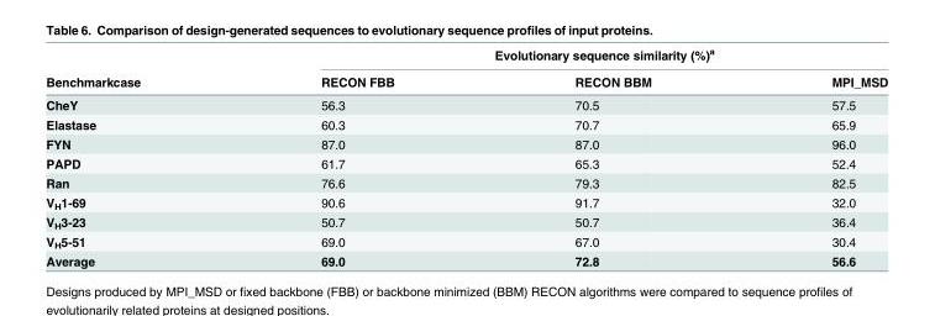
<table><thead><tr><td rowspan="2">Benchmarkcase</td><td colspan="3">Evolutionary sequence similarity (%)<sup>a</sup></td></tr><tr><td>RECON FBB</td><td>RECON BBM</td><td>MPI_MSD</td></tr></thead><tbody><tr><td>CheY</td><td>56.3</td><td>70.5</td><td>57.5</td></tr><tr><td>Elastase</td><td>60.3</td><td>70.7</td><td>65.9</td></tr><tr><td>FYN</td><td>87.0</td><td>87.0</td><td>96.0</td></tr><tr><td>PAPD</td><td>61.7</td><td>65.3</td><td>52.4</td></tr><tr><td>Ran</td><td>76.6</td><td>79.3</td><td>82.5</td></tr><tr><td>V<sub>H</sub>1-69</td><td>90.6</td><td>91.7</td><td>32.0</td></tr><tr><td>V<sub>H</sub>3-23</td><td>50.7</td><td>50.7</td><td>36.4</td></tr><tr><td>V<sub>H</sub>5-51</td><td>69.0</td><td>67.0</td><td>30.4</td></tr><tr><td>Average</td><td>69.0</td><td>72.8</td><td>56.6</td></tr></tbody></table>